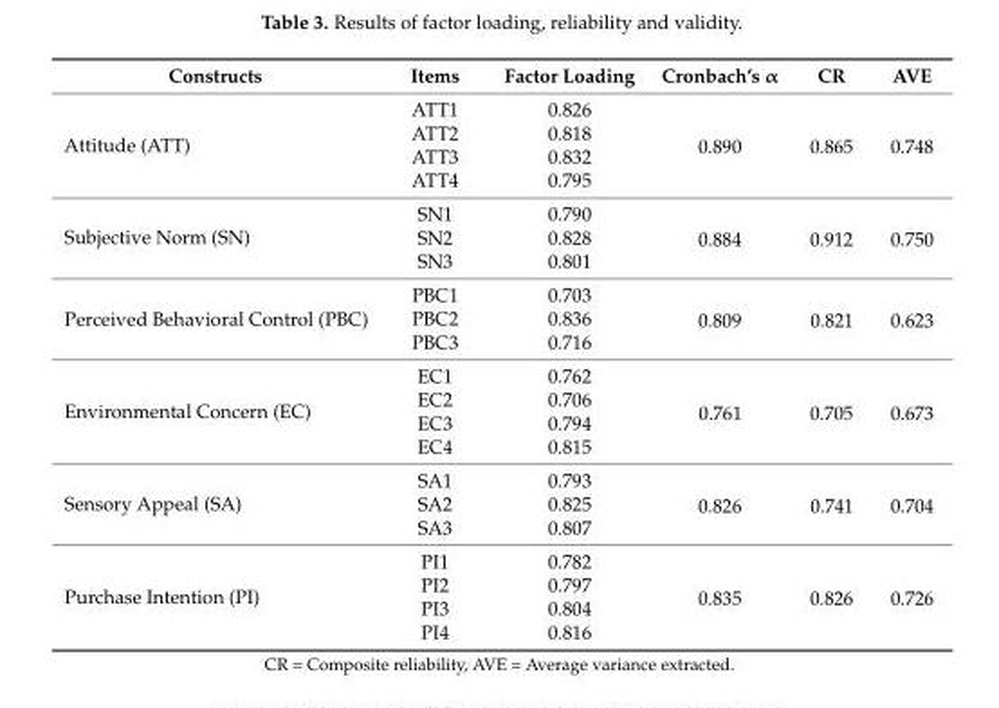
<table><thead><tr><td>Constructs</td><td>Items</td><td>Factor Loading</td><td>Cronbach’s α</td><td>CR</td><td>AVE</td></tr></thead><tbody><tr><td rowspan="4">Attitude (ATT)</td><td>ATT1</td><td>0.826</td><td rowspan="4">0.890</td><td rowspan="4">0.865</td><td rowspan="4">0.748</td></tr><tr><td>ATT2</td><td>0.818</td></tr><tr><td>ATT3</td><td>0.832</td></tr><tr><td>ATT4</td><td>0.795</td></tr><tr><td rowspan="3">Subjective Norm (SN)</td><td>SN1</td><td>0.790</td><td rowspan="3">0.884</td><td rowspan="3">0.912</td><td rowspan="3">0.750</td></tr><tr><td>SN2</td><td>0.828</td></tr><tr><td>SN3</td><td>0.801</td></tr><tr><td rowspan="3">Perceived Behavioral Control (PBC)</td><td>PBC1</td><td>0.703</td><td rowspan="3">0.809</td><td rowspan="3">0.821</td><td rowspan="3">0.623</td></tr><tr><td>PBC2</td><td>0.836</td></tr><tr><td>PBC3</td><td>0.716</td></tr><tr><td rowspan="4">Environmental Concern (EC)</td><td>EC1</td><td>0.762</td><td rowspan="4">0.761</td><td rowspan="4">0.705</td><td rowspan="4">0.673</td></tr><tr><td>EC2</td><td>0.706</td></tr><tr><td>EC3</td><td>0.794</td></tr><tr><td>EC4</td><td>0.815</td></tr><tr><td rowspan="3">Sensory Appeal (SA)</td><td>SA1</td><td>0.793</td><td rowspan="3">0.826</td><td rowspan="3">0.741</td><td rowspan="3">0.704</td></tr><tr><td>SA2</td><td>0.825</td></tr><tr><td>SA3</td><td>0.807</td></tr><tr><td rowspan="4">Purchase Intention (PI)</td><td>PI1</td><td>0.782</td><td rowspan="4">0.835</td><td rowspan="4">0.826</td><td rowspan="4">0.726</td></tr><tr><td>PI2</td><td>0.797</td></tr><tr><td>PI3</td><td>0.804</td></tr><tr><td>PI4</td><td>0.816</td></tr></tbody></table>